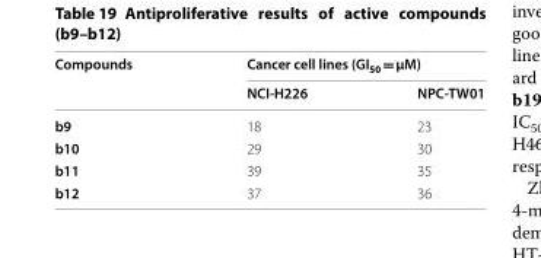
<table><thead><tr><td rowspan="2">Compounds</td><td colspan="2">Cancer cell lines (GI<sub>50</sub> = µM)</td></tr><tr><td>NCI-H226</td><td>NPC-TW01</td></tr></thead><tbody><tr><td>b9</td><td>18</td><td>23</td></tr><tr><td>b10</td><td>29</td><td>30</td></tr><tr><td>b11</td><td>39</td><td>35</td></tr><tr><td>b12</td><td>37</td><td>36</td></tr></tbody></table>